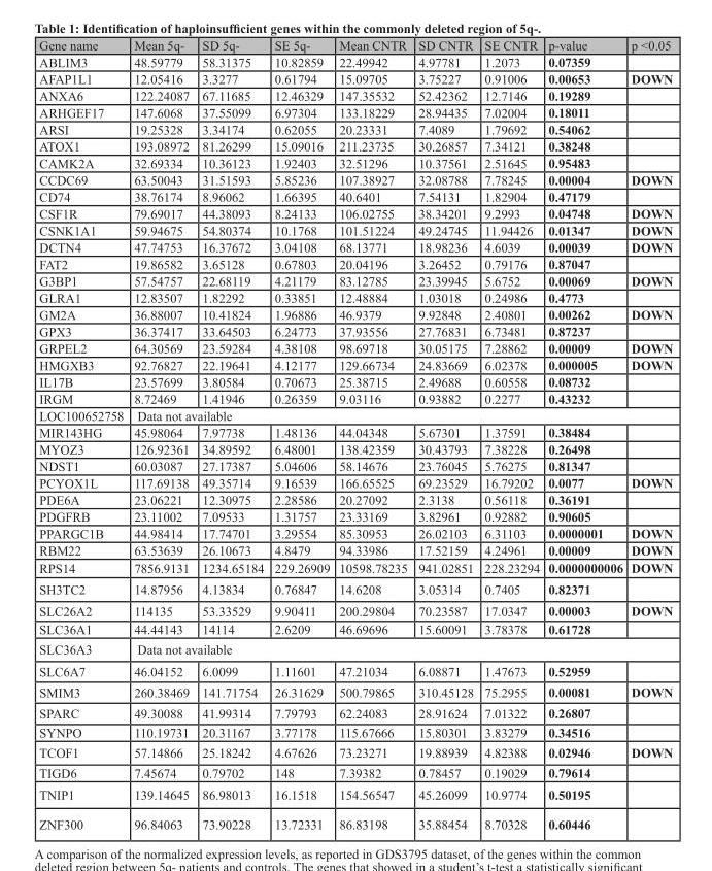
<table><tbody><tr><td>Gene name</td><td>Mean 5q-</td><td>SD 5q-</td><td>SE 5q-</td><td>Mean CNTR</td><td>SD CNTR</td><td>SE CNTR</td><td>p-value</td><td>p &lt;0.05</td></tr><tr><td>ABLIM3</td><td>48.59779</td><td>58.31375</td><td>10.82859</td><td>22.49942</td><td>4.97781</td><td>1.2073</td><td>0.07359</td><td></td></tr><tr><td>AFAP1L1</td><td>12.05416</td><td>3.3277</td><td>0.61794</td><td>15.09705</td><td>3.75227</td><td>0.91006</td><td>0.00653</td><td>DOWN</td></tr><tr><td>ANXA6</td><td>122.24087</td><td>67.11685</td><td>12.46329</td><td>147.35532</td><td>52.42362</td><td>12.7146</td><td>0.19289</td><td></td></tr><tr><td>ARHGEF17</td><td>147.6068</td><td>37.55099</td><td>6.97304</td><td>133.18229</td><td>28.94435</td><td>7.02004</td><td>0.18011</td><td></td></tr><tr><td>ARSI</td><td>19.25328</td><td>3.34174</td><td>0.62055</td><td>20.23331</td><td>7.4089</td><td>1.79692</td><td>0.54062</td><td></td></tr><tr><td>ATOX1</td><td>193.08972</td><td>81.26299</td><td>15.09016</td><td>211.23735</td><td>30.26857</td><td>7.34121</td><td>0.38248</td><td></td></tr><tr><td>CAMK2A</td><td>32.69334</td><td>10.36123</td><td>1.92403</td><td>32.51296</td><td>10.37561</td><td>2.51645</td><td>0.95483</td><td></td></tr><tr><td>CCDC69</td><td>63.50043</td><td>31.51593</td><td>5.85236</td><td>107.38927</td><td>32.08788</td><td>7.78245</td><td>0.00004</td><td>DOWN</td></tr><tr><td>CD74</td><td>38.76174</td><td>8.96062</td><td>1.66395</td><td>40.6401</td><td>7.54131</td><td>1.82904</td><td>0.47179</td><td></td></tr><tr><td>CSF1R</td><td>79.69017</td><td>44.38093</td><td>8.24133</td><td>106.02755</td><td>38.34201</td><td>9.2993</td><td>0.04748</td><td>DOWN</td></tr><tr><td>CSNK1A1</td><td>59.94675</td><td>54.80374</td><td>10.1768</td><td>101.51224</td><td>49.24745</td><td>11.94426</td><td>0.01347</td><td>DOWN</td></tr><tr><td>DCTN4</td><td>47.74753</td><td>16.37672</td><td>3.04108</td><td>68.13771</td><td>18.98236</td><td>4.6039</td><td>0.00039</td><td>DOWN</td></tr><tr><td>FAT2</td><td>19.86582</td><td>3.65128</td><td>0.67803</td><td>20.04196</td><td>3.26452</td><td>0.79176</td><td>0.87047</td><td></td></tr><tr><td>G3BP1</td><td>57.54757</td><td>22.68119</td><td>4.21179</td><td>83.12785</td><td>23.39945</td><td>5.6752</td><td>0.00069</td><td>DOWN</td></tr><tr><td>GLRA1</td><td>12.83507</td><td>1.82292</td><td>0.33851</td><td>12.48884</td><td>1.03018</td><td>0.24986</td><td>0.4773</td><td></td></tr><tr><td>GM2A</td><td>36.88007</td><td>10.41824</td><td>1.96886</td><td>46.9379</td><td>9.92848</td><td>2.40801</td><td>0.00262</td><td>DOWN</td></tr><tr><td>GPX3</td><td>36.37417</td><td>33.64503</td><td>6.24773</td><td>37.93556</td><td>27.76831</td><td>6.73481</td><td>0.87237</td><td></td></tr><tr><td>GRPEL2</td><td>64.30569</td><td>23.59284</td><td>4.38108</td><td>98.69718</td><td>30.05175</td><td>7.28862</td><td>0.00009</td><td>DOWN</td></tr><tr><td>HMGXB3</td><td>92.76827</td><td>22.19641</td><td>4.12177</td><td>129.66734</td><td>24.83669</td><td>6.02378</td><td>0.000005</td><td>DOWN</td></tr><tr><td>IL17B</td><td>23.57699</td><td>3.80584</td><td>0.70673</td><td>25.38715</td><td>2.49688</td><td>0.60558</td><td>0.08732</td><td></td></tr><tr><td>IRGM</td><td>8.72469</td><td>1.41946</td><td>0.26359</td><td>9.03116</td><td>0.93882</td><td>0.2277</td><td>0.43232</td><td></td></tr><tr><td>LOC100652758</td><td colspan="8">Data not available</td></tr><tr><td>MIR143HG</td><td>45.98064</td><td>7.97738</td><td>1.48136</td><td>44.04348</td><td>5.67301</td><td>1.37591</td><td>0.38484</td><td></td></tr><tr><td>MYOZ3</td><td>126.92361</td><td>34.89592</td><td>6.48001</td><td>138.42359</td><td>30.43793</td><td>7.38228</td><td>0.26498</td><td></td></tr><tr><td>NDST1</td><td>60.03087</td><td>27.17387</td><td>5.04606</td><td>58.14676</td><td>23.76045</td><td>5.76275</td><td>0.81347</td><td></td></tr><tr><td>PCYOX1L</td><td>117.69138</td><td>49.35714</td><td>9.16539</td><td>166.65525</td><td>69.23529</td><td>16.79202</td><td>0.0077</td><td>DOWN</td></tr><tr><td>PDE6A</td><td>23.06221</td><td>12.30975</td><td>2.28586</td><td>20.27092</td><td>2.3138</td><td>0.56118</td><td>0.36191</td><td></td></tr><tr><td>PDGFRB</td><td>23.11002</td><td>7.09533</td><td>1.31757</td><td>23.33169</td><td>3.82961</td><td>0.92882</td><td>0.90605</td><td></td></tr><tr><td>PPARGC1B</td><td>44.98414</td><td>17.74701</td><td>3.29554</td><td>85.30953</td><td>26.02103</td><td>6.31103</td><td>0.0000001</td><td>DOWN</td></tr><tr><td>RBM22</td><td>63.53639</td><td>26.10673</td><td>4.8479</td><td>94.33986</td><td>17.52159</td><td>4.24961</td><td>0.00009</td><td>DOWN</td></tr><tr><td>RPS14</td><td>7856.9131</td><td>1234.65184</td><td>229.26909</td><td>10598.78235</td><td>941.02851</td><td>228.23294</td><td>0.0000000006</td><td>DOWN</td></tr><tr><td>SH3TC2</td><td>14.87956</td><td>4.13834</td><td>0.76847</td><td>14.6208</td><td>3.05314</td><td>0.7405</td><td>0.82371</td><td></td></tr><tr><td>SLC26A2</td><td>114135</td><td>53.33529</td><td>9.90411</td><td>200.29804</td><td>70.23587</td><td>17.0347</td><td>0.00003</td><td>DOWN</td></tr><tr><td>SLC36A1</td><td>44.44143</td><td>14114</td><td>2.6209</td><td>46.69696</td><td>15.60091</td><td>3.78378</td><td>0.61728</td><td></td></tr><tr><td>SLC36A3</td><td colspan="8">Data not available</td></tr><tr><td>SLC6A7</td><td>46.04152</td><td>6.0099</td><td>1.11601</td><td>47.21034</td><td>6.08871</td><td>1.47673</td><td>0.52959</td><td></td></tr><tr><td>SMIM3</td><td>260.38469</td><td>141.71754</td><td>26.31629</td><td>500.79865</td><td>310.45128</td><td>75.2955</td><td>0.00081</td><td>DOWN</td></tr><tr><td>SPARC</td><td>49.30088</td><td>41.99314</td><td>7.79793</td><td>62.24083</td><td>28.91624</td><td>7.01322</td><td>0.26807</td><td></td></tr><tr><td>SYNPO</td><td>110.19731</td><td>20.31167</td><td>3.77178</td><td>115.67666</td><td>15.80301</td><td>3.83279</td><td>0.34516</td><td></td></tr><tr><td>TCOF1</td><td>57.14866</td><td>25.18242</td><td>4.67626</td><td>73.23271</td><td>19.88939</td><td>4.82388</td><td>0.02946</td><td>DOWN</td></tr><tr><td>TIGD6</td><td>7.45674</td><td>0.79702</td><td>148</td><td>7.39382</td><td>0.78457</td><td>0.19029</td><td>0.79614</td><td></td></tr><tr><td>TNIP1</td><td>139.14645</td><td>86.98013</td><td>16.1518</td><td>154.56547</td><td>45.26099</td><td>10.9774</td><td>0.50195</td><td></td></tr><tr><td>ZNF300</td><td>96.84063</td><td>73.90228</td><td>13.72331</td><td>86.83198</td><td>35.88454</td><td>8.70328</td><td>0.60446</td><td></td></tr></tbody></table>